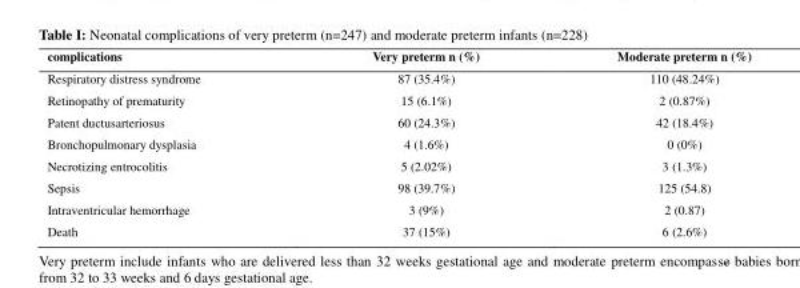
<table><thead><tr><td>complications</td><td>Very preterm n (%)</td><td>Moderate preterm n (%)</td></tr></thead><tbody><tr><td>Respiratory distress syndrome</td><td>87 (35.4%)</td><td>110 (48.24%)</td></tr><tr><td>Retinopathy of prematurity</td><td>15 (6.1%)</td><td>2 (0.87%)</td></tr><tr><td>Patent ductusarteriosus</td><td>60 (24.3%)</td><td>42 (18.4%)</td></tr><tr><td>Bronchopulmonary dysplasia</td><td>4 (1.6%)</td><td>0 (0%)</td></tr><tr><td>Necrotizing entrocolitis</td><td>5 (2.02%)</td><td>3 (1.3%)</td></tr><tr><td>Sepsis</td><td>98 (39.7%)</td><td>125 (54.8)</td></tr><tr><td>Intraventricular hemorrhage</td><td>3 (9%)</td><td>2 (0.87)</td></tr><tr><td>Death</td><td>37 (15%)</td><td>6 (2.6%)</td></tr></tbody></table>